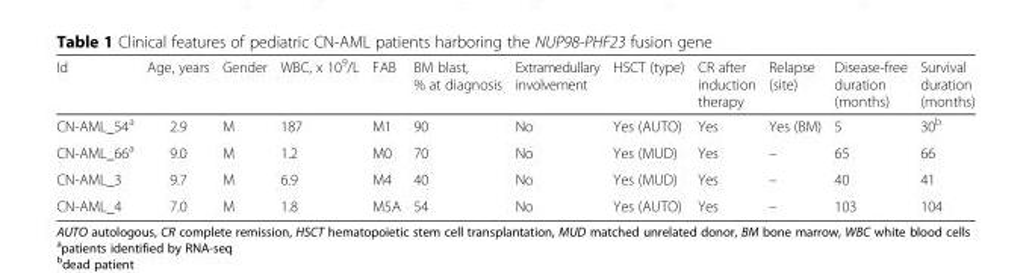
<table><thead><tr><td>Id</td><td>Age, years</td><td>Gender</td><td>WBC, x 10<sup>9</sup>/L</td><td>FAB</td><td>BM blast, % at diagnosis</td><td>Extramedullary involvement</td><td>HSCT (type)</td><td>CR after induction therapy</td><td>Relapse (site)</td><td>Disease-free duration (months)</td><td>Survival duration (months)</td></tr></thead><tbody><tr><td>CN-AML_54<sup>a</sup></td><td>2.9</td><td>M</td><td>187</td><td>M1</td><td>90</td><td>No</td><td>Yes (AUTO)</td><td>Yes</td><td>Yes (BM)</td><td>5</td><td>30<sup>b</sup></td></tr><tr><td>CN-AML_66<sup>a</sup></td><td>9.0</td><td>M</td><td>1.2</td><td>M0</td><td>70</td><td>No</td><td>Yes (MUD)</td><td>Yes</td><td>–</td><td>65</td><td>66</td></tr><tr><td>CN-AML_3</td><td>9.7</td><td>M</td><td>6.9</td><td>M4</td><td>40</td><td>No</td><td>Yes (MUD)</td><td>Yes</td><td>–</td><td>40</td><td>41</td></tr><tr><td>CN-AML_4</td><td>7.0</td><td>M</td><td>1.8</td><td>M5A</td><td>54</td><td>No</td><td>Yes (AUTO)</td><td>Yes</td><td>–</td><td>103</td><td>104</td></tr></tbody></table>